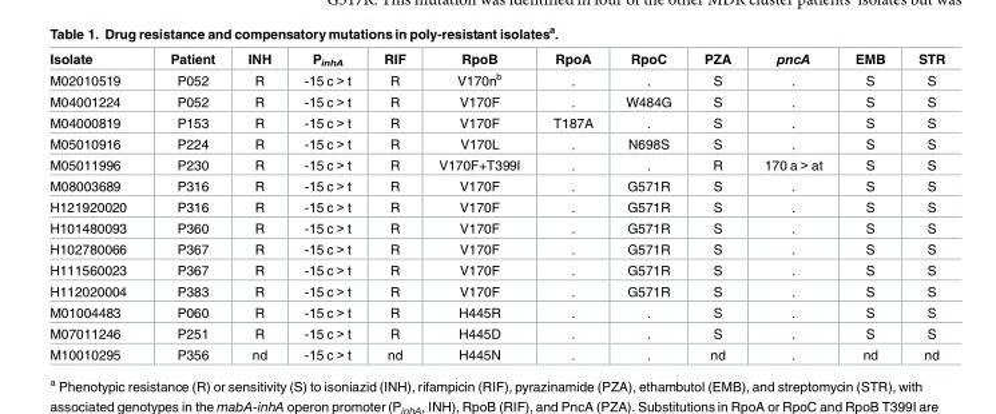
<table><thead><tr><td>Isolate</td><td>Patient</td><td>INH</td><td>P<sub>inhA</sub></td><td>RIF</td><td>RpoB</td><td>RpoA</td><td>RpoC</td><td>PZA</td><td>pncA</td><td>EMB</td><td>STR</td></tr></thead><tbody><tr><td>M02010519</td><td>P052</td><td>R</td><td>-15 c &gt; t</td><td>R</td><td>V170n<sup>b</sup></td><td>.</td><td>.</td><td>S</td><td>.</td><td>S</td><td>S</td></tr><tr><td>M04001224</td><td>P052</td><td>R</td><td>-15 c &gt; t</td><td>R</td><td>V170F</td><td>.</td><td>W484G</td><td>S</td><td>.</td><td>S</td><td>S</td></tr><tr><td>M04000819</td><td>P153</td><td>R</td><td>-15 c &gt; t</td><td>R</td><td>V170F</td><td>T187A</td><td>.</td><td>S</td><td>.</td><td>S</td><td>S</td></tr><tr><td>M05010916</td><td>P224</td><td>R</td><td>-15 c &gt; t</td><td>R</td><td>V170L</td><td>.</td><td>N698S</td><td>S</td><td>.</td><td>S</td><td>S</td></tr><tr><td>M05011996</td><td>P230</td><td>R</td><td>-15 c &gt; t</td><td>R</td><td>V170F+T399I</td><td>.</td><td>.</td><td>R</td><td>170 a &gt; at</td><td>S</td><td>S</td></tr><tr><td>M08003689</td><td>P316</td><td>R</td><td>-15 c &gt; t</td><td>R</td><td>V170F</td><td>.</td><td>G571R</td><td>S</td><td>.</td><td>S</td><td>S</td></tr><tr><td>H121920020</td><td>P316</td><td>R</td><td>-15 c &gt; t</td><td>R</td><td>V170F</td><td>.</td><td>G571R</td><td>S</td><td>.</td><td>S</td><td>S</td></tr><tr><td>H101480093</td><td>P360</td><td>R</td><td>-15 c &gt; t</td><td>R</td><td>V170F</td><td>.</td><td>G571R</td><td>S</td><td>.</td><td>S</td><td>S</td></tr><tr><td>H102780066</td><td>P367</td><td>R</td><td>-15 c &gt; t</td><td>R</td><td>V170F</td><td>.</td><td>G571R</td><td>S</td><td>.</td><td>S</td><td>S</td></tr><tr><td>H111560023</td><td>P367</td><td>R</td><td>-15 c &gt; t</td><td>R</td><td>V170F</td><td>.</td><td>G571R</td><td>S</td><td>.</td><td>S</td><td>S</td></tr><tr><td>H112020004</td><td>P383</td><td>R</td><td>-15 c &gt; t</td><td>R</td><td>V170F</td><td>.</td><td>G571R</td><td>S</td><td>.</td><td>S</td><td>S</td></tr><tr><td>M01004483</td><td>P060</td><td>R</td><td>-15 c &gt; t</td><td>R</td><td>H445R</td><td>.</td><td>.</td><td>S</td><td>.</td><td>S</td><td>S</td></tr><tr><td>M07011246</td><td>P251</td><td>R</td><td>-15 c &gt; t</td><td>R</td><td>H445D</td><td>.</td><td>.</td><td>S</td><td>.</td><td>S</td><td>S</td></tr><tr><td>M10010295</td><td>P356</td><td>nd</td><td>-15 c &gt; t</td><td>nd</td><td>H445N</td><td>.</td><td>.</td><td>nd</td><td>.</td><td>nd</td><td>nd</td></tr></tbody></table>